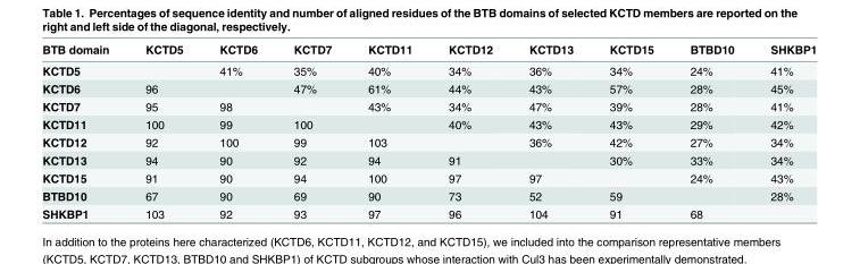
<table><thead><tr><td>BTB domain</td><td>KCTD5</td><td>KCTD6</td><td>KCTD7</td><td>KCTD11</td><td>KCTD12</td><td>KCTD13</td><td>KCTD15</td><td>BTBD10</td><td>SHKBP1</td></tr></thead><tbody><tr><td>KCTD5</td><td></td><td>41%</td><td>35%</td><td>40%</td><td>34%</td><td>36%</td><td>34%</td><td>24%</td><td>41%</td></tr><tr><td>KCTD6</td><td>96</td><td></td><td>47%</td><td>61%</td><td>44%</td><td>43%</td><td>57%</td><td>28%</td><td>45%</td></tr><tr><td>KCTD7</td><td>95</td><td>98</td><td></td><td>43%</td><td>34%</td><td>47%</td><td>39%</td><td>28%</td><td>41%</td></tr><tr><td>KCTD11</td><td>100</td><td>99</td><td>100</td><td></td><td>40%</td><td>43%</td><td>43%</td><td>29%</td><td>42%</td></tr><tr><td>KCTD12</td><td>92</td><td>100</td><td>99</td><td>103</td><td></td><td>36%</td><td>42%</td><td>27%</td><td>34%</td></tr><tr><td>KCTD13</td><td>94</td><td>90</td><td>92</td><td>94</td><td>91</td><td></td><td>30%</td><td>33%</td><td>34%</td></tr><tr><td>KCTD15</td><td>91</td><td>90</td><td>94</td><td>100</td><td>97</td><td>97</td><td></td><td>24%</td><td>43%</td></tr><tr><td>BTBD10</td><td>67</td><td>90</td><td>69</td><td>90</td><td>73</td><td>52</td><td>59</td><td></td><td>28%</td></tr><tr><td>SHKBP1</td><td>103</td><td>92</td><td>93</td><td>97</td><td>96</td><td>104</td><td>91</td><td>68</td><td></td></tr></tbody></table>